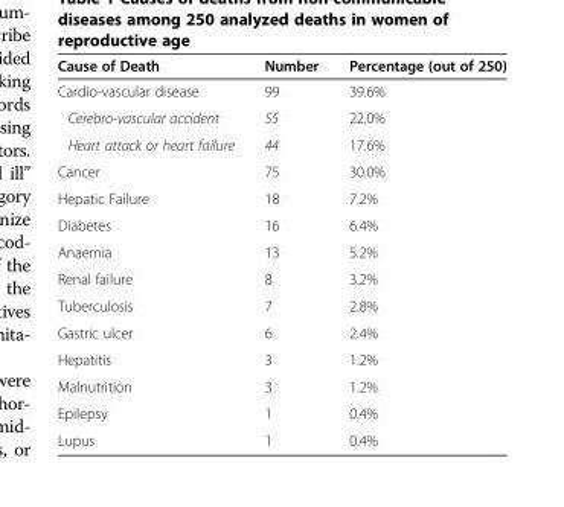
<table><thead><tr><td>Cause of Death</td><td>Number</td><td>Percentage (out of 250)</td></tr></thead><tbody><tr><td>Cardio-vascular disease</td><td>99</td><td>39.6%</td></tr><tr><td>Cerebro-vascular accident</td><td>55</td><td>22.0%</td></tr><tr><td>Heart attack or heart failure</td><td>44</td><td>17.6%</td></tr><tr><td>Cancer</td><td>75</td><td>30.0%</td></tr><tr><td>Hepatic Failure</td><td>18</td><td>7.2%</td></tr><tr><td>Diabetes</td><td>16</td><td>6.4%</td></tr><tr><td>Anaemia</td><td>13</td><td>5.2%</td></tr><tr><td>Renal failure</td><td>8</td><td>3.2%</td></tr><tr><td>Tuberculosis</td><td>7</td><td>2.8%</td></tr><tr><td>Gastric ulcer</td><td>6</td><td>2.4%</td></tr><tr><td>Hepatitis</td><td>3</td><td>1.2%</td></tr><tr><td>Malnutrition</td><td>3</td><td>1.2%</td></tr><tr><td>Epilepsy</td><td>1</td><td>0.4%</td></tr><tr><td>Lupus</td><td>1</td><td>0.4%</td></tr></tbody></table>